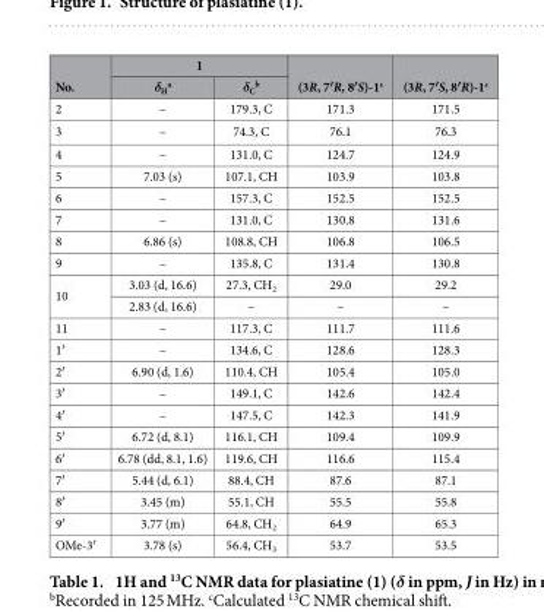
<table><thead><tr><td rowspan="2">No.</td><td colspan="2">1</td><td rowspan="2">(3R, 7′R, 8′S)-1<sup>c</sup></td><td rowspan="2">(3R, 7′S, 8′R)-1<sup>c</sup></td></tr><tr><td>δ<sub>H</sub> <sup>a</sup></td><td>δ<sub>C</sub> <sup>b</sup></td></tr></thead><tbody><tr><td>2</td><td>–</td><td>179.3, C</td><td>171.3</td><td>171.5</td></tr><tr><td>3</td><td>–</td><td>74.3, C</td><td>76.1</td><td>76.3</td></tr><tr><td>4</td><td>–</td><td>131.0, C</td><td>124.7</td><td>124.9</td></tr><tr><td>5</td><td>7.03 (s)</td><td>107.1, CH</td><td>103.9</td><td>103.8</td></tr><tr><td>6</td><td>–</td><td>157.3, C</td><td>152.5</td><td>152.5</td></tr><tr><td>7</td><td>–</td><td>131.0, C</td><td>130.8</td><td>131.6</td></tr><tr><td>8</td><td>6.86 (s)</td><td>108.8, CH</td><td>106.8</td><td>106.5</td></tr><tr><td>9</td><td>–</td><td>135.8, C</td><td>131.4</td><td>130.8</td></tr><tr><td rowspan="2">10</td><td>3.03 (d, 16.6)</td><td>27.3, CH<sub>2</sub></td><td>29.0</td><td>29.2</td></tr><tr><td>2.83 (d, 16.6)</td><td>–</td><td>–</td><td>–</td></tr><tr><td>11</td><td>–</td><td>117.3, C</td><td>111.7</td><td>111.6</td></tr><tr><td>1′</td><td>–</td><td>134.6, C</td><td>128.6</td><td>128.3</td></tr><tr><td>2′</td><td>6.90 (d, 1.6)</td><td>110.4, CH</td><td>105.4</td><td>105.0</td></tr><tr><td>3′</td><td>–</td><td>149.1, C</td><td>142.6</td><td>142.4</td></tr><tr><td>4′</td><td>–</td><td>147.5, C</td><td>142.3</td><td>141.9</td></tr><tr><td>5′</td><td>6.72 (d, 8.1)</td><td>116.1, CH</td><td>109.4</td><td>109.9</td></tr><tr><td>6′</td><td>6.78 (dd, 8.1, 1.6)</td><td>119.6, CH</td><td>116.6</td><td>115.4</td></tr><tr><td>7′</td><td>5.44 (d, 6.1)</td><td>88.4, CH</td><td>87.6</td><td>87.1</td></tr><tr><td>8′</td><td>3.45 (m)</td><td>55.1, CH</td><td>55.5</td><td>55.8</td></tr><tr><td>9′</td><td>3.77 (m)</td><td>64.8, CH<sub>2</sub></td><td>64.9</td><td>65.3</td></tr><tr><td>OMe-3′</td><td>3.78 (s)</td><td>56.4, CH<sub>3</sub></td><td>53.7</td><td>53.5</td></tr></tbody></table>